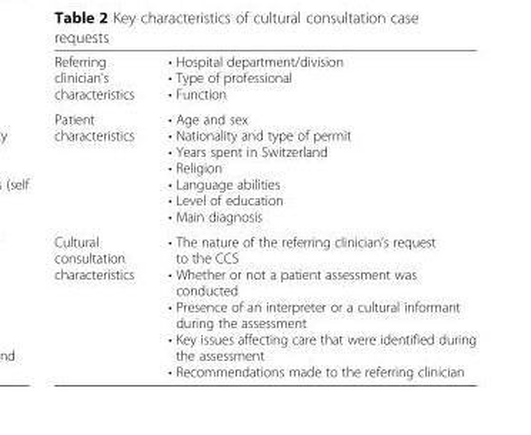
<table><tbody><tr><td>Referring clinician’s characteristics</td><td>• Hospital department/division • Type of professional • Function</td></tr><tr><td>Patient characteristics</td><td>• Age and sex • Nationality and type of permit • Years spent in Switzerland • Religion • Language abilities • Level of education • Main diagnosis</td></tr><tr><td>Cultural consultation characteristics</td><td>• The nature of the referring clinician’s request to the CCS • Whether or not a patient assessment was conducted • Presence of an interpreter or a cultural informant during the assessment • Key issues affecting care that were identified during the assessment • Recommendations made to the referring clinician</td></tr></tbody></table>